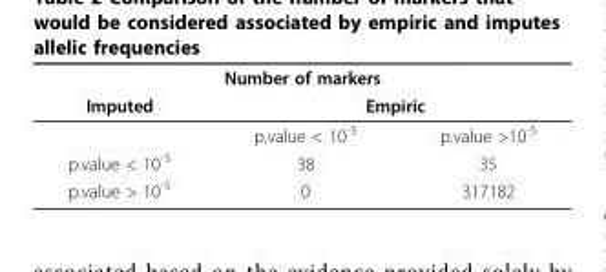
<table><thead><tr><td colspan="3">Number of markers</td></tr><tr><td rowspan="2">Imputed</td><td colspan="2">Empiric</td></tr><tr><td>p.value &lt; 10<sup>-5</sup></td><td>p.value &gt;10<sup>-5</sup></td></tr></thead><tbody><tr><td>p.value &lt; 10<sup>-5</sup></td><td>38</td><td>35</td></tr><tr><td>p.value &gt; 10<sup>-5</sup></td><td>0</td><td>317182</td></tr></tbody></table>